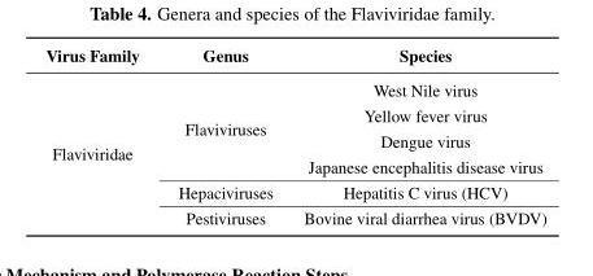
<table><thead><tr><td>Virus Family</td><td>Genus</td><td>Species</td></tr></thead><tbody><tr><td rowspan="6">Flaviviridae</td><td rowspan="4">Flaviviruses</td><td>West Nile virus</td></tr><tr><td>Yellow fever virus</td></tr><tr><td>Dengue virus</td></tr><tr><td>Japanese encephalitis disease virus</td></tr><tr><td>Hepaciviruses</td><td>Hepatitis C virus (HCV)</td></tr><tr><td>Pestiviruses</td><td>Bovine viral diarrhea virus (BVDV)</td></tr></tbody></table>